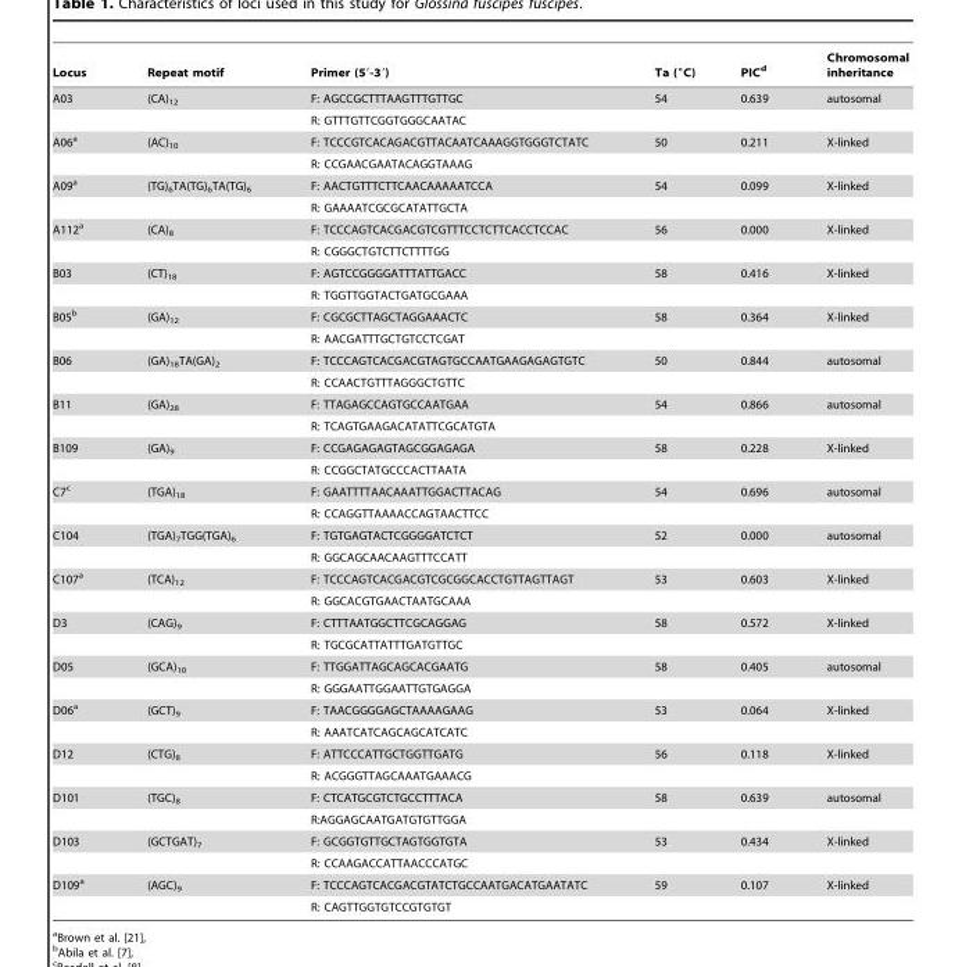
<table><thead><tr><td>Locus</td><td>Repeat motif</td><td>Primer (5′-3′)</td><td>Ta (°C)</td><td>PIC<sup>d</sup></td><td>Chromosomal inheritance</td></tr></thead><tbody><tr><td rowspan="2">A03</td><td>(CA)<sub>12</sub></td><td>F: AGCCGCTTTAAGTTTGTTGC</td><td>54</td><td>0.639</td><td>autosomal</td></tr><tr><td></td><td>R: GTTTGTTCGGTGGGCAATAC</td><td></td><td></td><td></td></tr><tr><td rowspan="2">A06<sup>a</sup></td><td>(AC)<sub>10</sub></td><td>F: TCCCGTCACAGACGTTACAATCAAAGGTGGGTCTATC</td><td>50</td><td>0.211</td><td>X-linked</td></tr><tr><td></td><td>R: CCGAACGAATACAGGTAAAG</td><td></td><td></td><td></td></tr><tr><td rowspan="2">A09<sup>a</sup></td><td>(TG)<sub>6</sub>TA(TG)<sub>6</sub>TA(TG)<sub>6</sub></td><td>F: AACTGTTTCTTCAACAAAAATCCA</td><td>54</td><td>0.099</td><td>X-linked</td></tr><tr><td></td><td>R: GAAAATCGCGCATATTGCTA</td><td></td><td></td><td></td></tr><tr><td rowspan="2">A112<sup>a</sup></td><td>(CA)<sub>8</sub></td><td>F: TCCCAGTCACGACGTCGTTTCCTCTTCACCTCCAC</td><td>56</td><td>0.000</td><td>X-linked</td></tr><tr><td></td><td>R: CGGGCTGTCTTCTTTTGG</td><td></td><td></td><td></td></tr><tr><td rowspan="2">B03</td><td>(CT)<sub>18</sub></td><td>F: AGTCCGGGGATTTATTGACC</td><td>58</td><td>0.416</td><td>X-linked</td></tr><tr><td></td><td>R: TGGTTGGTACTGATGCGAAA</td><td></td><td></td><td></td></tr><tr><td rowspan="2">B05<sup>b</sup></td><td>(GA)<sub>12</sub></td><td>F: CGCGCTTAGCTAGGAAACTC</td><td>58</td><td>0.364</td><td>X-linked</td></tr><tr><td></td><td>R: AACGATTTGCTGTCCTCGAT</td><td></td><td></td><td></td></tr><tr><td rowspan="2">B06</td><td>(GA)<sub>18</sub>TA(GA)<sub>2</sub></td><td>F: TCCCAGTCACGACGTAGTGCCAATGAAGAGAGTGTC</td><td>50</td><td>0.844</td><td>autosomal</td></tr><tr><td></td><td>R: CCAACTGTTTAGGGCTGTTC</td><td></td><td></td><td></td></tr><tr><td rowspan="2">B11</td><td>(GA)<sub>28</sub></td><td>F: TTAGAGCCAGTGCCAATGAA</td><td>54</td><td>0.866</td><td>autosomal</td></tr><tr><td></td><td>R: TCAGTGAAGACATATTCGCATGTA</td><td></td><td></td><td></td></tr><tr><td rowspan="2">B109</td><td>(GA)<sub>9</sub></td><td>F: CCGAGAGAGTAGCGGAGAGA</td><td>58</td><td>0.228</td><td>X-linked</td></tr><tr><td></td><td>R: CCGGCTATGCCCACTTAATA</td><td></td><td></td><td></td></tr><tr><td rowspan="2">C7<sup>c</sup></td><td>(TGA)<sub>18</sub></td><td>F: GAATTTTAACAAATTGGACTTACAG</td><td>54</td><td>0.696</td><td>autosomal</td></tr><tr><td></td><td>R: CCAGGTTAAAACCAGTAACTTCC</td><td></td><td></td><td></td></tr><tr><td rowspan="2">C104</td><td>(TGA)<sub>7</sub>TGG(TGA)<sub>6</sub></td><td>F: TGTGAGTACTCGGGGATCTCT</td><td>52</td><td>0.000</td><td>autosomal</td></tr><tr><td></td><td>R: GGCAGCAACAAGTTTCCATT</td><td></td><td></td><td></td></tr><tr><td rowspan="2">C107<sup>a</sup></td><td>(TCA)<sub>12</sub></td><td>F: TCCCAGTCACGACGTCGCGGCACCTGTTAGTTAGT</td><td>53</td><td>0.603</td><td>X-linked</td></tr><tr><td></td><td>R: GGCACGTGAACTAATGCAAA</td><td></td><td></td><td></td></tr><tr><td rowspan="2">D3</td><td>(CAG)<sub>9</sub></td><td>F: CTTTAATGGCTTCGCAGGAG</td><td>58</td><td>0.572</td><td>X-linked</td></tr><tr><td></td><td>R: TGCGCATTATTTGATGTTGC</td><td></td><td></td><td></td></tr><tr><td rowspan="2">D05</td><td>(GCA)<sub>10</sub></td><td>F: TTGGATTAGCAGCACGAATG</td><td>58</td><td>0.405</td><td>autosomal</td></tr><tr><td></td><td>R: GGGAATTGGAATTGTGAGGA</td><td></td><td></td><td></td></tr><tr><td rowspan="2">D06<sup>a</sup></td><td>(GCT)<sub>9</sub></td><td>F: TAACGGGGAGCTAAAAGAAG</td><td>53</td><td>0.064</td><td>X-linked</td></tr><tr><td></td><td>R: AAATCATCAGCAGCATCATC</td><td></td><td></td><td></td></tr><tr><td rowspan="2">D12</td><td>(CTG)<sub>8</sub></td><td>F: ATTCCCATTGCTGGTTGATG</td><td>56</td><td>0.118</td><td>X-linked</td></tr><tr><td></td><td>R: ACGGGTTAGCAAATGAAACG</td><td></td><td></td><td></td></tr><tr><td rowspan="2">D101</td><td>(TGC)<sub>8</sub></td><td>F: CTCATGCGTCTGCCTTTACA</td><td>58</td><td>0.639</td><td>autosomal</td></tr><tr><td></td><td>R:AGGAGCAATGATGTGTTGGA</td><td></td><td></td><td></td></tr><tr><td rowspan="2">D103</td><td>(GCTGAT)<sub>7</sub></td><td>F: GCGGTGTTGCTAGTGGTGTA</td><td>53</td><td>0.434</td><td>X-linked</td></tr><tr><td></td><td>R: CCAAGACCATTAACCCATGC</td><td></td><td></td><td></td></tr><tr><td rowspan="2">D109<sup>a</sup></td><td>(AGC)<sub>9</sub></td><td>F: TCCCAGTCACGACGTATCTGCCAATGACATGAATATC</td><td>59</td><td>0.107</td><td>X-linked</td></tr><tr><td></td><td>R: CAGTTGGTGTCCGTGTGT</td><td></td><td></td><td></td></tr></tbody></table>